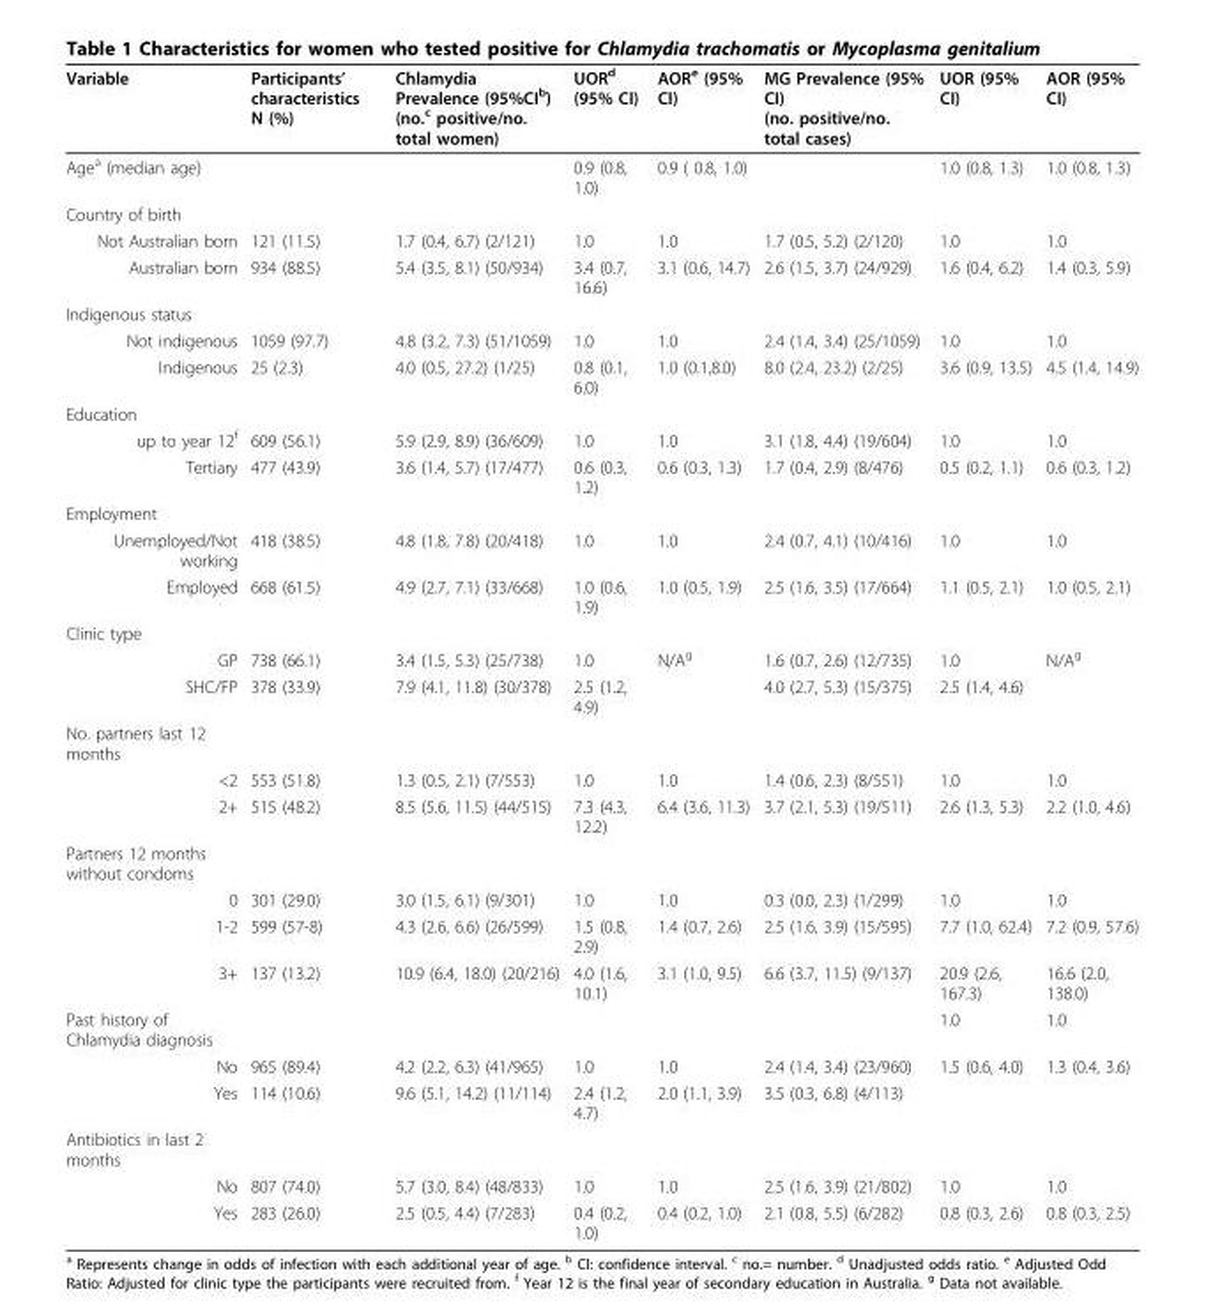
<table><thead><tr><td>Variable</td><td>Participants’ characteristics N (%)</td><td>Chlamydia Prevalence (95%CI<sup>b</sup>) (no.<sup>c</sup> positive/no. total women)</td><td>UOR<sup>d</sup> (95% CI)</td><td>AOR<sup>e</sup> (95% CI)</td><td>MG Prevalence (95% CI) (no. positive/no. total cases)</td><td>UOR (95% CI)</td><td>AOR (95% CI)</td></tr></thead><tbody><tr><td>Age<sup>a</sup> (median age)</td><td></td><td></td><td>0.9 (0.8, 1.0)</td><td>0.9 ( 0.8, 1.0)</td><td></td><td>1.0 (0.8, 1.3)</td><td>1.0 (0.8, 1.3)</td></tr><tr><td colspan="8">Country of birth</td></tr><tr><td>Not Australian born</td><td>121 (11.5)</td><td>1.7 (0.4, 6.7) (2/121)</td><td>1.0</td><td>1.0</td><td>1.7 (0.5, 5.2) (2/120)</td><td>1.0</td><td>1.0</td></tr><tr><td>Australian born</td><td>934 (88.5)</td><td>5.4 (3.5, 8.1) (50/934)</td><td>3.4 (0.7, 16.6)</td><td>3.1 (0.6, 14.7)</td><td>2.6 (1.5, 3.7) (24/929)</td><td>1.6 (0.4, 6.2)</td><td>1.4 (0.3, 5.9)</td></tr><tr><td colspan="8">Indigenous status</td></tr><tr><td>Not indigenous</td><td>1059 (97.7)</td><td>4.8 (3.2, 7.3) (51/1059)</td><td>1.0</td><td>1.0</td><td>2.4 (1.4, 3.4) (25/1059)</td><td>1.0</td><td>1.0</td></tr><tr><td>Indigenous</td><td>25 (2.3)</td><td>4.0 (0.5, 27.2) (1/25)</td><td>0.8 (0.1, 6.0)</td><td>1.0 (0.1,8.0)</td><td>8.0 (2.4, 23.2) (2/25)</td><td>3.6 (0.9, 13.5)</td><td>4.5 (1.4, 14.9)</td></tr><tr><td colspan="8">Education</td></tr><tr><td>up to year 12<sup>f</sup></td><td>609 (56.1)</td><td>5.9 (2.9, 8.9) (36/609)</td><td>1.0</td><td>1.0</td><td>3.1 (1.8, 4.4) (19/604)</td><td>1.0</td><td>1.0</td></tr><tr><td>Tertiary</td><td>477 (43.9)</td><td>3.6 (1.4, 5.7) (17/477)</td><td>0.6 (0.3, 1.2)</td><td>0.6 (0.3, 1.3)</td><td>1.7 (0.4, 2.9) (8/476)</td><td>0.5 (0.2, 1.1)</td><td>0.6 (0.3, 1.2)</td></tr><tr><td colspan="8">Employment</td></tr><tr><td>Unemployed/Not working</td><td>418 (38.5)</td><td>4.8 (1.8, 7.8) (20/418)</td><td>1.0</td><td>1.0</td><td>2.4 (0.7, 4.1) (10/416)</td><td>1.0</td><td>1.0</td></tr><tr><td>Employed</td><td>668 (61.5)</td><td>4.9 (2.7, 7.1) (33/668)</td><td>1.0 (0.6, 1.9)</td><td>1.0 (0.5, 1.9)</td><td>2.5 (1.6, 3.5) (17/664)</td><td>1.1 (0.5, 2.1)</td><td>1.0 (0.5, 2.1)</td></tr><tr><td colspan="8">Clinic type</td></tr><tr><td>GP</td><td>738 (66.1)</td><td>3.4 (1.5, 5.3) (25/738)</td><td>1.0</td><td>N/A<sup>g</sup></td><td>1.6 (0.7, 2.6) (12/735)</td><td>1.0</td><td>N/A<sup>g</sup></td></tr><tr><td>SHC/FP</td><td>378 (33.9)</td><td>7.9 (4.1, 11.8) (30/378)</td><td>2.5 (1.2, 4.9)</td><td></td><td>4.0 (2.7, 5.3) (15/375)</td><td>2.5 (1.4, 4.6)</td><td></td></tr><tr><td colspan="8">No. partners last 12 months</td></tr><tr><td>&lt;2</td><td>553 (51.8)</td><td>1.3 (0.5, 2.1) (7/553)</td><td>1.0</td><td>1.0</td><td>1.4 (0.6, 2.3) (8/551)</td><td>1.0</td><td>1.0</td></tr><tr><td>2+</td><td>515 (48.2)</td><td>8.5 (5.6, 11.5) (44/515)</td><td>7.3 (4.3, 12.2)</td><td>6.4 (3.6, 11.3)</td><td>3.7 (2.1, 5.3) (19/511)</td><td>2.6 (1.3, 5.3)</td><td>2.2 (1.0, 4.6)</td></tr><tr><td colspan="8">Partners 12 months without condoms</td></tr><tr><td>0</td><td>301 (29.0)</td><td>3.0 (1.5, 6.1) (9/301)</td><td>1.0</td><td>1.0</td><td>0.3 (0.0, 2.3) (1/299)</td><td>1.0</td><td>1.0</td></tr><tr><td>1-2</td><td>599 (57-8)</td><td>4.3 (2.6, 6.6) (26/599)</td><td>1.5 (0.8, 2.9)</td><td>1.4 (0.7, 2.6)</td><td>2.5 (1.6, 3.9) (15/595)</td><td>7.7 (1.0, 62.4)</td><td>7.2 (0.9, 57.6)</td></tr><tr><td>3+</td><td>137 (13.2)</td><td>10.9 (6.4, 18.0) (20/216)</td><td>4.0 (1.6, 10.1)</td><td>3.1 (1.0, 9.5)</td><td>6.6 (3.7, 11.5) (9/137)</td><td>20.9 (2.6, 167.3)</td><td>16.6 (2.0, 138.0)</td></tr><tr><td>Past history of Chlamydia diagnosis</td><td></td><td></td><td></td><td></td><td></td><td>1.0</td><td>1.0</td></tr><tr><td>No</td><td>965 (89.4)</td><td>4.2 (2.2, 6.3) (41/965)</td><td>1.0</td><td>1.0</td><td>2.4 (1.4, 3.4) (23/960)</td><td>1.5 (0.6, 4.0)</td><td>1.3 (0.4, 3.6)</td></tr><tr><td>Yes</td><td>114 (10.6)</td><td>9.6 (5.1, 14.2) (11/114)</td><td>2.4 (1.2, 4.7)</td><td>2.0 (1.1, 3.9)</td><td>3.5 (0.3, 6.8) (4/113)</td><td></td><td></td></tr><tr><td colspan="8">Antibiotics in last 2 months</td></tr><tr><td>No</td><td>807 (74.0)</td><td>5.7 (3.0, 8.4) (48/833)</td><td>1.0</td><td>1.0</td><td>2.5 (1.6, 3.9) (21/802)</td><td>1.0</td><td>1.0</td></tr><tr><td>Yes</td><td>283 (26.0)</td><td>2.5 (0.5, 4.4) (7/283)</td><td>0.4 (0.2, 1.0)</td><td>0.4 (0.2, 1.0)</td><td>2.1 (0.8, 5.5) (6/282)</td><td>0.8 (0.3, 2.6)</td><td>0.8 (0.3, 2.5)</td></tr></tbody></table>